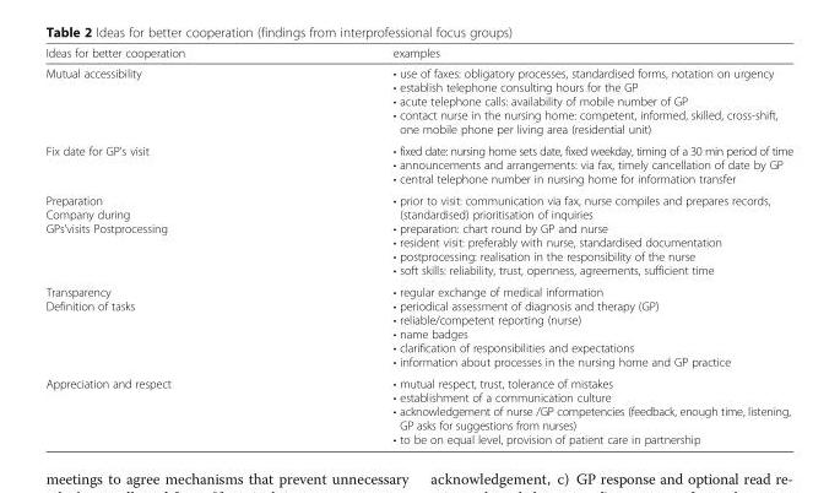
<table><thead><tr><td>Ideas for better cooperation</td><td>examples</td></tr></thead><tbody><tr><td>Mutual accessibility</td><td>• use of faxes: obligatory processes, standardised forms, notation on urgency • establish telephone consulting hours for the GP • acute telephone calls: availability of mobile number of GP • contact nurse in the nursing home: competent, informed, skilled, cross-shift, one mobile phone per living area (residential unit)</td></tr><tr><td>Fix date for GP’s visit</td><td>• fixed date: nursing home sets date, fixed weekday, timing of a 30 min period of time • announcements and arrangements: via fax, timely cancellation of date by GP • central telephone number in nursing home for information transfer</td></tr><tr><td>Preparation Company during GPs’visits Postprocessing</td><td>• prior to visit: communication via fax, nurse compiles and prepares records, (standardised) prioritisation of inquiries • preparation: chart round by GP and nurse • resident visit: preferably with nurse, standardised documentation • postprocessing: realisation in the responsibility of the nurse • soft skills: reliability, trust, openness, agreements, sufficient time</td></tr><tr><td>Transparency Definition of tasks</td><td>• regular exchange of medical information • periodical assessment of diagnosis and therapy (GP) • reliable/competent reporting (nurse) • name badges • clarification of responsibilities and expectations • information about processes in the nursing home and GP practice</td></tr><tr><td>Appreciation and respect</td><td>• mutual respect, trust, tolerance of mistakes • establishment of a communication culture • acknowledgement of nurse /GP competencies (feedback, enough time, listening, GP asks for suggestions from nurses) • to be on equal level, provision of patient care in partnership</td></tr></tbody></table>